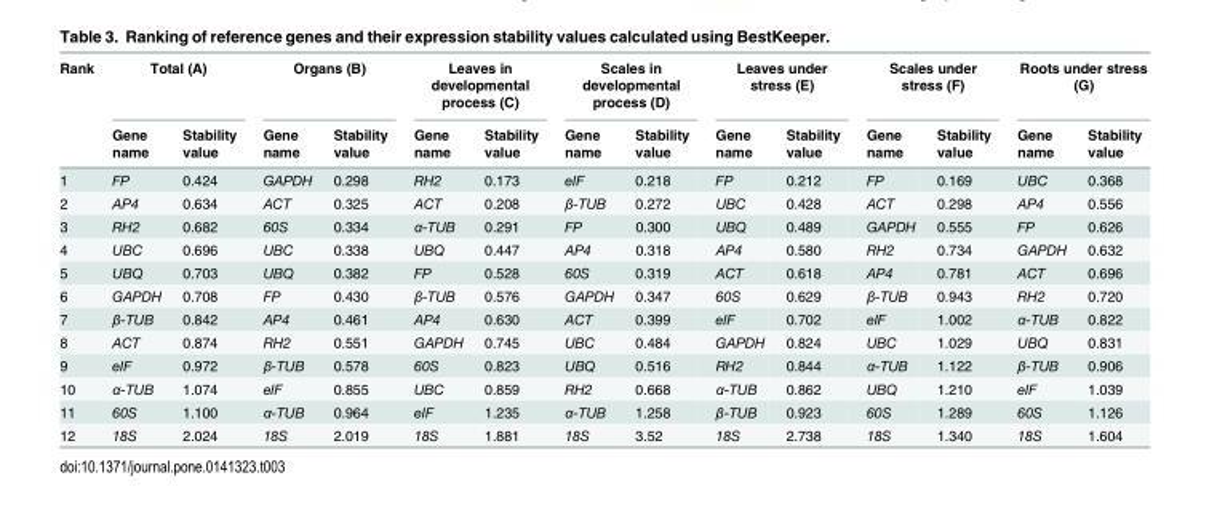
<table><thead><tr><td rowspan="2">Rank</td><td colspan="2">Total (A)</td><td colspan="2">Organs (B)</td><td colspan="2">Leaves in developmental process (C)</td><td colspan="2">Scales in developmental process (D)</td><td colspan="2">Leaves under stress (E)</td><td colspan="2">Scales under stress (F)</td><td colspan="2">Roots under stress (G)</td></tr><tr><td>Gene name</td><td>Stability value</td><td>Gene name</td><td>Stability value</td><td>Gene name</td><td>Stability value</td><td>Gene name</td><td>Stability value</td><td>Gene name</td><td>Stability value</td><td>Gene name</td><td>Stability value</td><td>Gene name</td><td>Stability value</td></tr></thead><tbody><tr><td>1</td><td>FP</td><td>0.424</td><td>GAPDH</td><td>0.298</td><td>RH2</td><td>0.173</td><td>eIF</td><td>0.218</td><td>FP</td><td>0.212</td><td>FP</td><td>0.169</td><td>UBC</td><td>0.368</td></tr><tr><td>2</td><td>AP4</td><td>0.634</td><td>ACT</td><td>0.325</td><td>ACT</td><td>0.208</td><td>β-TUB</td><td>0.272</td><td>UBC</td><td>0.428</td><td>ACT</td><td>0.298</td><td>AP4</td><td>0.556</td></tr><tr><td>3</td><td>RH2</td><td>0.682</td><td>60S</td><td>0.334</td><td>α-TUB</td><td>0.291</td><td>FP</td><td>0.300</td><td>UBQ</td><td>0.489</td><td>GAPDH</td><td>0.555</td><td>FP</td><td>0.626</td></tr><tr><td>4</td><td>UBC</td><td>0.696</td><td>UBC</td><td>0.338</td><td>UBQ</td><td>0.447</td><td>AP4</td><td>0.318</td><td>AP4</td><td>0.580</td><td>RH2</td><td>0.734</td><td>GAPDH</td><td>0.632</td></tr><tr><td>5</td><td>UBQ</td><td>0.703</td><td>UBQ</td><td>0.382</td><td>FP</td><td>0.528</td><td>60S</td><td>0.319</td><td>ACT</td><td>0.618</td><td>AP4</td><td>0.781</td><td>ACT</td><td>0.696</td></tr><tr><td>6</td><td>GAPDH</td><td>0.708</td><td>FP</td><td>0.430</td><td>β-TUB</td><td>0.576</td><td>GAPDH</td><td>0.347</td><td>60S</td><td>0.629</td><td>β-TUB</td><td>0.943</td><td>RH2</td><td>0.720</td></tr><tr><td>7</td><td>β-TUB</td><td>0.842</td><td>AP4</td><td>0.461</td><td>AP4</td><td>0.630</td><td>ACT</td><td>0.399</td><td>eIF</td><td>0.702</td><td>eIF</td><td>1.002</td><td>α-TUB</td><td>0.822</td></tr><tr><td>8</td><td>ACT</td><td>0.874</td><td>RH2</td><td>0.551</td><td>GAPDH</td><td>0.745</td><td>UBC</td><td>0.484</td><td>GAPDH</td><td>0.824</td><td>UBC</td><td>1.029</td><td>UBQ</td><td>0.831</td></tr><tr><td>9</td><td>eIF</td><td>0.972</td><td>β-TUB</td><td>0.578</td><td>60S</td><td>0.823</td><td>UBQ</td><td>0.516</td><td>RH2</td><td>0.844</td><td>α-TUB</td><td>1.122</td><td>β-TUB</td><td>0.906</td></tr><tr><td>10</td><td>α-TUB</td><td>1.074</td><td>eIF</td><td>0.855</td><td>UBC</td><td>0.859</td><td>RH2</td><td>0.668</td><td>α-TUB</td><td>0.862</td><td>UBQ</td><td>1.210</td><td>eIF</td><td>1.039</td></tr><tr><td>11</td><td>60S</td><td>1.100</td><td>α-TUB</td><td>0.964</td><td>eIF</td><td>1.235</td><td>α-TUB</td><td>1.258</td><td>β-TUB</td><td>0.923</td><td>60S</td><td>1.289</td><td>60S</td><td>1.126</td></tr><tr><td>12</td><td>18S</td><td>2.024</td><td>18S</td><td>2.019</td><td>18S</td><td>1.881</td><td>18S</td><td>3.52</td><td>18S</td><td>2.738</td><td>18S</td><td>1.340</td><td>18S</td><td>1.604</td></tr></tbody></table>